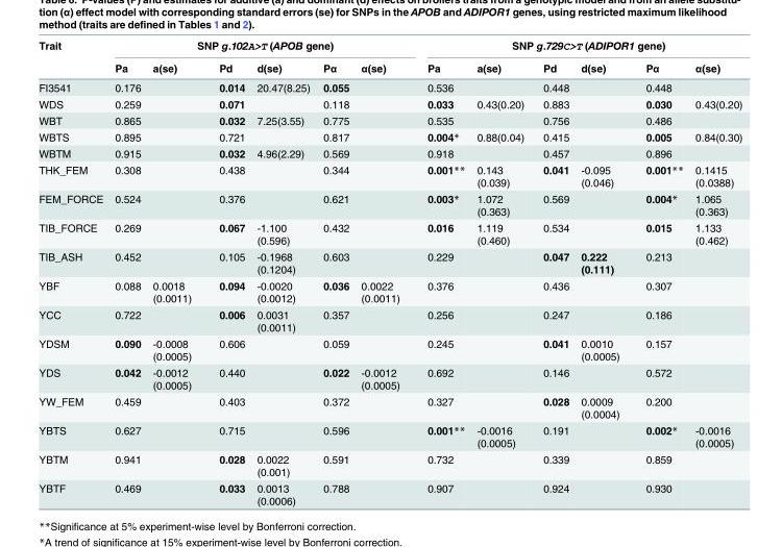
<table><thead><tr><td rowspan="2">Trait</td><td colspan="6">SNP g.102A&gt;T (APOB gene)</td><td colspan="6">SNP g.729C&gt;T (ADIPOR1 gene)</td></tr><tr><td>Pa</td><td>a(se)</td><td>Pd</td><td>d(se)</td><td>Pα</td><td>α(se)</td><td>Pa</td><td>a(se)</td><td>Pd</td><td>d(se)</td><td>Pα</td><td>α(se)</td></tr></thead><tbody><tr><td>FI3541</td><td>0.176</td><td></td><td>0.014</td><td>20.47(8.25)</td><td>0.055</td><td></td><td>0.536</td><td></td><td>0.448</td><td></td><td>0.448</td><td></td></tr><tr><td>WDS</td><td>0.259</td><td></td><td>0.071</td><td></td><td>0.118</td><td></td><td>0.033</td><td>0.43(0.20)</td><td>0.883</td><td></td><td>0.030</td><td>0.43(0.20)</td></tr><tr><td>WBT</td><td>0.865</td><td></td><td>0.032</td><td>7.25(3.55)</td><td>0.775</td><td></td><td>0.535</td><td></td><td>0.756</td><td></td><td>0.486</td><td></td></tr><tr><td>WBTS</td><td>0.895</td><td></td><td>0.721</td><td></td><td>0.817</td><td></td><td>0.004*</td><td>0.88(0.04)</td><td>0.415</td><td></td><td>0.005</td><td>0.84(0.30)</td></tr><tr><td>WBTM</td><td>0.915</td><td></td><td>0.032</td><td>4.96(2.29)</td><td>0.569</td><td></td><td>0.918</td><td></td><td>0.457</td><td></td><td>0.896</td><td></td></tr><tr><td>THK_FEM</td><td>0.308</td><td></td><td>0.438</td><td></td><td>0.344</td><td></td><td>0.001**</td><td>0.143 (0.039)</td><td>0.041</td><td>-0.095 (0.046)</td><td>0.001**</td><td>0.1415 (0.0388)</td></tr><tr><td>FEM_FORCE</td><td>0.524</td><td></td><td>0.376</td><td></td><td>0.621</td><td></td><td>0.003*</td><td>1.072 (0.363)</td><td>0.569</td><td></td><td>0.004*</td><td>1.065 (0.363)</td></tr><tr><td>TIB_FORCE</td><td>0.269</td><td></td><td>0.067</td><td>-1.100 (0.596)</td><td>0.432</td><td></td><td>0.016</td><td>1.119 (0.460)</td><td>0.534</td><td></td><td>0.015</td><td>1.133 (0.462)</td></tr><tr><td>TIB_ASH</td><td>0.452</td><td></td><td>0.105</td><td>-0.1968 (0.1204)</td><td>0.603</td><td></td><td>0.229</td><td></td><td>0.047</td><td>0.222 (0.111)</td><td>0.213</td><td></td></tr><tr><td>YBF</td><td>0.088</td><td>0.0018 (0.0011)</td><td>0.094</td><td>-0.0020 (0.0012)</td><td>0.036</td><td>0.0022 (0.0011)</td><td>0.376</td><td></td><td>0.436</td><td></td><td>0.307</td><td></td></tr><tr><td>YCC</td><td>0.722</td><td></td><td>0.006</td><td>0.0031 (0.0011)</td><td>0.357</td><td></td><td>0.256</td><td></td><td>0.247</td><td></td><td>0.186</td><td></td></tr><tr><td>YDSM</td><td>0.090</td><td>-0.0008 (0.0005)</td><td>0.606</td><td></td><td>0.059</td><td></td><td>0.245</td><td></td><td>0.041</td><td>0.0010 (0.0005)</td><td>0.157</td><td></td></tr><tr><td>YDS</td><td>0.042</td><td>-0.0012 (0.0005)</td><td>0.440</td><td></td><td>0.022</td><td>-0.0012 (0.0005)</td><td>0.692</td><td></td><td>0.146</td><td></td><td>0.572</td><td></td></tr><tr><td>YW_FEM</td><td>0.459</td><td></td><td>0.403</td><td></td><td>0.372</td><td></td><td>0.327</td><td></td><td>0.028</td><td>0.0009 (0.0004)</td><td>0.200</td><td></td></tr><tr><td>YBTS</td><td>0.627</td><td></td><td>0.715</td><td></td><td>0.596</td><td></td><td>0.001**</td><td>-0.0016 (0.0005)</td><td>0.191</td><td></td><td>0.002*</td><td>-0.0016 (0.0005)</td></tr><tr><td>YBTM</td><td>0.941</td><td></td><td>0.028</td><td>0.0022 (0.001)</td><td>0.591</td><td></td><td>0.732</td><td></td><td>0.339</td><td></td><td>0.859</td><td></td></tr><tr><td>YBTF</td><td>0.469</td><td></td><td>0.033</td><td>0.0013 (0.0006)</td><td>0.788</td><td></td><td>0.907</td><td></td><td>0.924</td><td></td><td>0.930</td><td></td></tr></tbody></table>